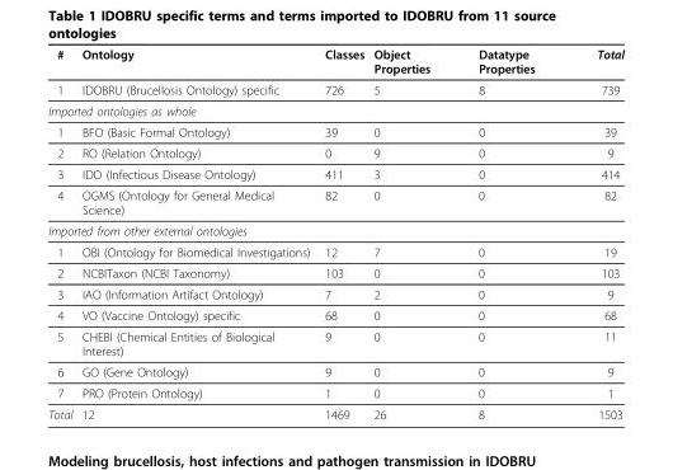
<table><thead><tr><td>#</td><td>Ontology</td><td>Classes</td><td>Object Properties</td><td>Datatype Properties</td><td>Total</td></tr></thead><tbody><tr><td>1</td><td>IDOBRU (Brucellosis Ontology) specific</td><td>726</td><td>5</td><td>8</td><td>739</td></tr><tr><td colspan="6">Imported ontologies as whole</td></tr><tr><td>1</td><td>BFO (Basic Formal Ontology)</td><td>39</td><td>0</td><td>0</td><td>39</td></tr><tr><td>2</td><td>RO (Relation Ontology)</td><td>0</td><td>9</td><td>0</td><td>9</td></tr><tr><td>3</td><td>IDO (Infectious Disease Ontology)</td><td>411</td><td>3</td><td>0</td><td>414</td></tr><tr><td>4</td><td>OGMS (Ontology for General Medical Science)</td><td>82</td><td>0</td><td>0</td><td>82</td></tr><tr><td colspan="6">Imported from other external ontologies</td></tr><tr><td>1</td><td>OBI (Ontology for Biomedical Investigations)</td><td>12</td><td>7</td><td>0</td><td>19</td></tr><tr><td>2</td><td>NCBITaxon (NCBI Taxonomy)</td><td>103</td><td>0</td><td>0</td><td>103</td></tr><tr><td>3</td><td>IAO (Information Artifact Ontology)</td><td>7</td><td>2</td><td>0</td><td>9</td></tr><tr><td>4</td><td>VO (Vaccine Ontology) specific</td><td>68</td><td>0</td><td>0</td><td>68</td></tr><tr><td>5</td><td>CHEBI (Chemical Entities of Biological Interest)</td><td>9</td><td>0</td><td>0</td><td>11</td></tr><tr><td>6</td><td>GO (Gene Ontology)</td><td>9</td><td>0</td><td>0</td><td>9</td></tr><tr><td>7</td><td>PRO (Protein Ontology)</td><td>1</td><td>0</td><td>0</td><td>1</td></tr><tr><td>Total</td><td>12</td><td>1469</td><td>26</td><td>8</td><td>1503</td></tr></tbody></table>